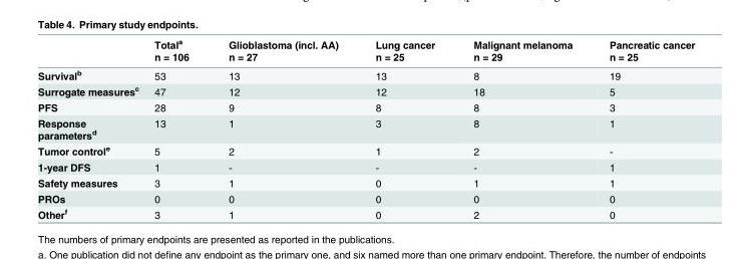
<table><thead><tr><td></td><td>Total<sup>a</sup> n = 106</td><td>Glioblastoma (incl. AA) n = 27</td><td>Lung cancer n = 25</td><td>Malignant melanoma n = 29</td><td>Pancreatic cancer n = 25</td></tr></thead><tbody><tr><td>Survival<sup>b</sup></td><td>53</td><td>13</td><td>13</td><td>8</td><td>19</td></tr><tr><td>Surrogate measures<sup>c</sup></td><td>47</td><td>12</td><td>12</td><td>18</td><td>5</td></tr><tr><td>PFS</td><td>28</td><td>9</td><td>8</td><td>8</td><td>3</td></tr><tr><td>Response parameters<sup>d</sup></td><td>13</td><td>1</td><td>3</td><td>8</td><td>1</td></tr><tr><td>Tumor control<sup>e</sup></td><td>5</td><td>2</td><td>1</td><td>2</td><td>-</td></tr><tr><td>1-year DFS</td><td>1</td><td>-</td><td>-</td><td>-</td><td>1</td></tr><tr><td>Safety measures</td><td>3</td><td>1</td><td>0</td><td>1</td><td>1</td></tr><tr><td>PROs</td><td>0</td><td>0</td><td>0</td><td>0</td><td>0</td></tr><tr><td>Other<sup>f</sup></td><td>3</td><td>1</td><td>0</td><td>2</td><td>0</td></tr></tbody></table>